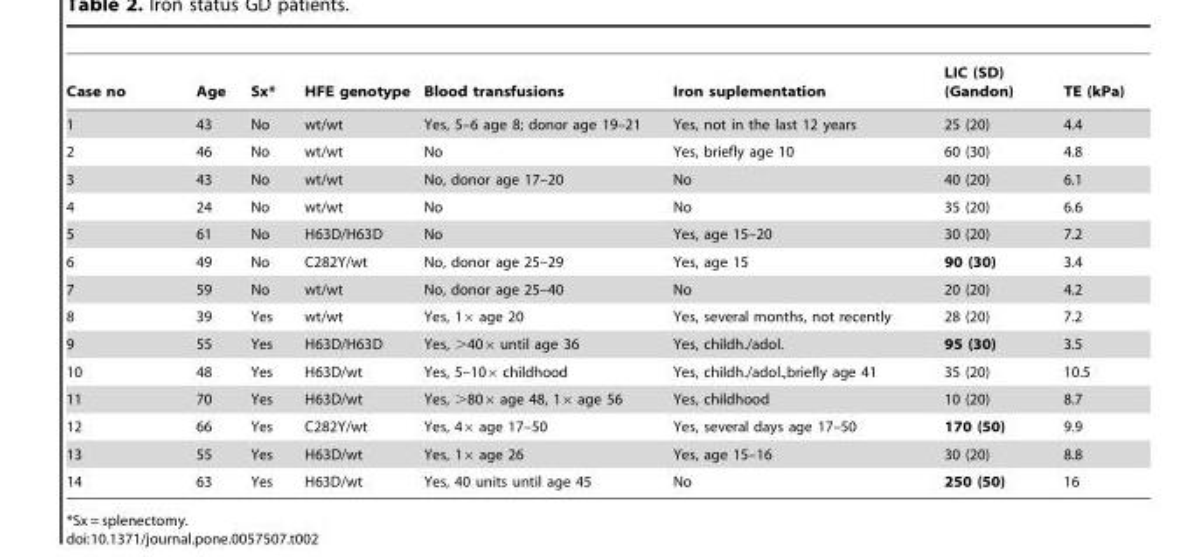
<table><thead><tr><td>Case no</td><td>Age</td><td>Sx*</td><td>HFE genotype</td><td>Blood transfusions</td><td>Iron suplementation</td><td>LIC (SD) (Gandon)</td><td>TE (kPa)</td></tr></thead><tbody><tr><td>1</td><td>43</td><td>No</td><td>wt/wt</td><td>Yes, 5–6 age 8; donor age 19–21</td><td>Yes, not in the last 12 years</td><td>25 (20)</td><td>4.4</td></tr><tr><td>2</td><td>46</td><td>No</td><td>wt/wt</td><td>No</td><td>Yes, briefly age 10</td><td>60 (30)</td><td>4.8</td></tr><tr><td>3</td><td>43</td><td>No</td><td>wt/wt</td><td>No, donor age 17–20</td><td>No</td><td>40 (20)</td><td>6.1</td></tr><tr><td>4</td><td>24</td><td>No</td><td>wt/wt</td><td>No</td><td>No</td><td>35 (20)</td><td>6.6</td></tr><tr><td>5</td><td>61</td><td>No</td><td>H63D/H63D</td><td>No</td><td>Yes, age 15–20</td><td>30 (20)</td><td>7.2</td></tr><tr><td>6</td><td>49</td><td>No</td><td>C282Y/wt</td><td>No, donor age 25–29</td><td>Yes, age 15</td><td>90 (30)</td><td>3.4</td></tr><tr><td>7</td><td>59</td><td>No</td><td>wt/wt</td><td>No, donor age 25–40</td><td>No</td><td>20 (20)</td><td>4.2</td></tr><tr><td>8</td><td>39</td><td>Yes</td><td>wt/wt</td><td>Yes, 1× age 20</td><td>Yes, several months, not recently</td><td>28 (20)</td><td>7.2</td></tr><tr><td>9</td><td>55</td><td>Yes</td><td>H63D/H63D</td><td>Yes, &gt;40× until age 36</td><td>Yes, childh./adol.</td><td>95 (30)</td><td>3.5</td></tr><tr><td>10</td><td>48</td><td>Yes</td><td>H63D/wt</td><td>Yes, 5–10× childhood</td><td>Yes, childh./adol.,briefly age 41</td><td>35 (20)</td><td>10.5</td></tr><tr><td>11</td><td>70</td><td>Yes</td><td>H63D/wt</td><td>Yes, &gt;80× age 48, 1× age 56</td><td>Yes, childhood</td><td>10 (20)</td><td>8.7</td></tr><tr><td>12</td><td>66</td><td>Yes</td><td>C282Y/wt</td><td>Yes, 4× age 17–50</td><td>Yes, several days age 17–50</td><td>170 (50)</td><td>9.9</td></tr><tr><td>13</td><td>55</td><td>Yes</td><td>H63D/wt</td><td>Yes, 1× age 26</td><td>Yes, age 15–16</td><td>30 (20)</td><td>8.8</td></tr><tr><td>14</td><td>63</td><td>Yes</td><td>H63D/wt</td><td>Yes, 40 units until age 45</td><td>No</td><td>250 (50)</td><td>16</td></tr></tbody></table>